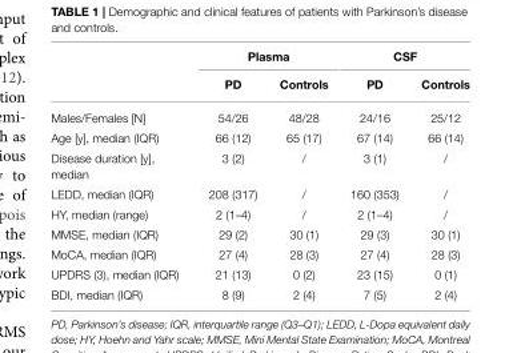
<table><thead><tr><td rowspan="2"></td><td colspan="2">Plasma</td><td colspan="2">CSF</td></tr><tr><td>PD</td><td>Controls</td><td>PD</td><td>Controls</td></tr></thead><tbody><tr><td>Males/Females [N]</td><td>54/26</td><td>48/28</td><td>24/16</td><td>25/12</td></tr><tr><td>Age [y], median (IQR)</td><td>66 (12)</td><td>65 (17)</td><td>67 (14)</td><td>66 (14)</td></tr><tr><td>Disease duration [y], median</td><td>3 (2)</td><td>/</td><td>3 (1)</td><td>/</td></tr><tr><td>LEDD, median (IQR)</td><td>208 (317)</td><td>/</td><td>160 (353)</td><td>/</td></tr><tr><td>HY, median (range)</td><td>2 (1–4)</td><td>/</td><td>2 (1–4)</td><td>/</td></tr><tr><td>MMSE, median (IQR)</td><td>29 (2)</td><td>30 (1)</td><td>29 (3)</td><td>30 (1)</td></tr><tr><td>MoCA, median (IQR)</td><td>27 (4)</td><td>28 (3)</td><td>27 (4)</td><td>28 (3)</td></tr><tr><td>UPDRS (3), median (IQR)</td><td>21 (13)</td><td>0 (2)</td><td>23 (15)</td><td>0 (1)</td></tr><tr><td>BDI, median (IQR)</td><td>8 (9)</td><td>2 (4)</td><td>7 (5)</td><td>2 (4)</td></tr></tbody></table>